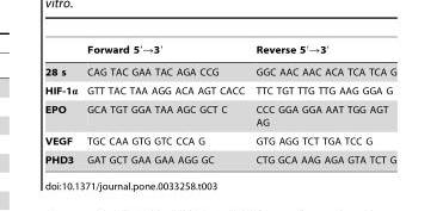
<table><thead><tr><td></td><td>Forward 5′→3′</td><td>Reverse 5′→3′</td></tr></thead><tbody><tr><td>28 s</td><td>CAG TAC GAA TAC AGA CCG</td><td>GGC AAC AAC ACA TCA TCA G</td></tr><tr><td>HIF-1α</td><td>GTT TAC TAA AGG ACA AGT CACC</td><td>TTC TGT TTG TTG AAG GGA G</td></tr><tr><td>EPO</td><td>GCA TGT GGA TAA AGC GCT C</td><td>CCC GGA GGA AAT TGG AGT AG</td></tr><tr><td>VEGF</td><td>TGC CAA GTG GTC CCA G</td><td>GTG AGG TCT TGA TCC G</td></tr><tr><td>PHD3</td><td>GAT GCT GAA GAA AGG GC</td><td>CTG GCA AAG AGA GTA TCT G</td></tr></tbody></table>